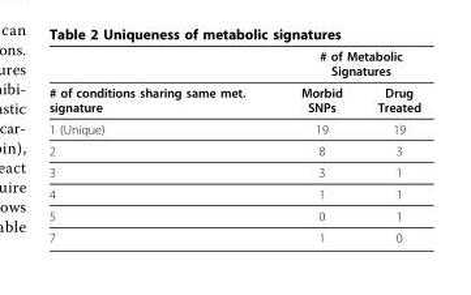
<table><thead><tr><td rowspan="2"># of conditions sharing same met. signature</td><td colspan="2"># of Metabolic Signatures</td></tr><tr><td>Morbid SNPs</td><td>Drug Treated</td></tr></thead><tbody><tr><td>1 (Unique)</td><td>19</td><td>19</td></tr><tr><td>2</td><td>8</td><td>3</td></tr><tr><td>3</td><td>3</td><td>1</td></tr><tr><td>4</td><td>1</td><td>1</td></tr><tr><td>5</td><td>0</td><td>1</td></tr><tr><td>7</td><td>1</td><td>0</td></tr></tbody></table>